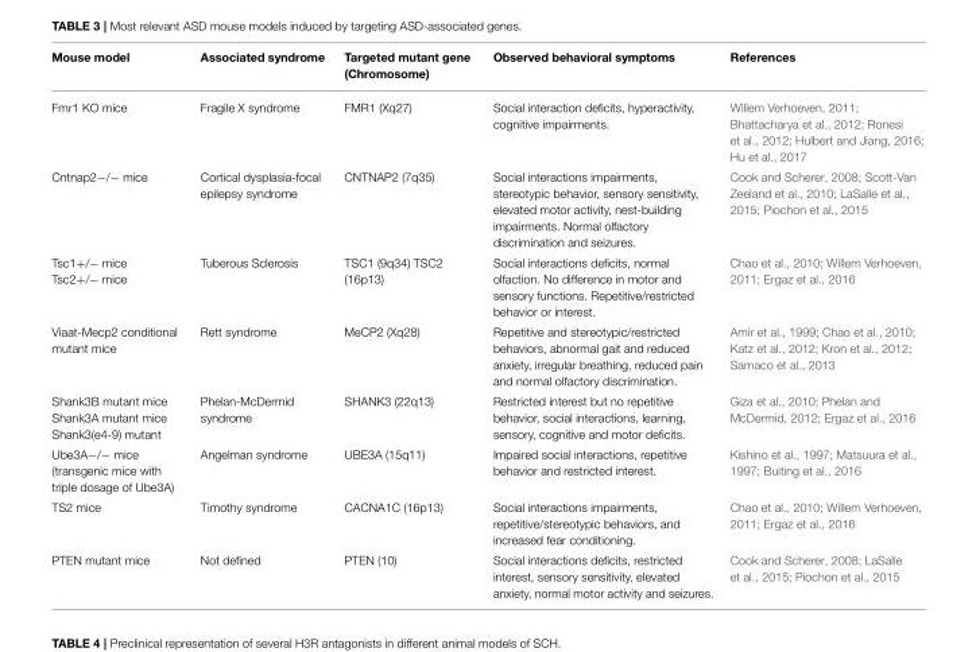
<table><thead><tr><td>Mouse model</td><td>Associated syndrome</td><td>Targeted mutant gene (Chromosome)</td><td>Observed behavioral symptoms</td><td>References</td></tr></thead><tbody><tr><td>Fmr1 KO mice</td><td>Fragile X syndrome</td><td>FMR1 (Xq27)</td><td>Social interaction deficits, hyperactivity, cognitive impairments.</td><td>Willem Verhoeven, 2011; Bhattacharya et al., 2012; Ronesi et al., 2012; Hulbert and Jiang, 2016; Hu et al., 2017</td></tr><tr><td>Cntnap2−/− mice</td><td>Cortical dysplasia-focal epilepsy syndrome</td><td>CNTNAP2 (7q35)</td><td>Social interactions impairments, stereotypic behavior, sensory sensitivity, elevated motor activity, nest-building impairments. Normal olfactory discrimination and seizures.</td><td>Cook and Scherer, 2008; Scott-Van Zeeland et al., 2010; LaSalle et al., 2015; Piochon et al., 2015</td></tr><tr><td>Tsc1+/− mice Tsc2+/− mice</td><td>Tuberous Sclerosis</td><td>TSC1 (9q34) TSC2 (16p13)</td><td>Social interactions deficits, normal olfaction. No difference in motor and sensory functions. Repetitive/restricted behavior or interest.</td><td>Chao et al., 2010; Willem Verhoeven, 2011; Ergaz et al., 2016</td></tr><tr><td>Viaat-Mecp2 conditional mutant mice</td><td>Rett syndrome</td><td>MeCP2 (Xq28)</td><td>Repetitive and stereotypic/restricted behaviors, abnormal gait and reduced anxiety, irregular breathing, reduced pain and normal olfactory discrimination.</td><td>Amir et al., 1999; Chao et al., 2010; Katz et al., 2012; Kron et al., 2012; Samaco et al., 2013</td></tr><tr><td>Shank3B mutant mice Shank3A mutant mice Shank3(e4-9) mutant</td><td>Phelan-McDermid syndrome</td><td>SHANK3 (22q13)</td><td>Restricted interest but no repetitive behavior, social interactions, learning, sensory, cognitive and motor deficits.</td><td>Giza et al., 2010; Phelan and McDermid, 2012; Ergaz et al., 2016</td></tr><tr><td>Ube3A−/− mice (transgenic mice with triple dosage of Ube3A)</td><td>Angelman syndrome</td><td>UBE3A (15q11)</td><td>Impaired social interactions, repetitive behavior and restricted interest.</td><td>Kishino et al., 1997; Matsuura et al., 1997; Buiting et al., 2016</td></tr><tr><td>TS2 mice</td><td>Timothy syndrome</td><td>CACNA1C (16p13)</td><td>Social interactions impairments, repetitive/stereotypic behaviors, and increased fear conditioning.</td><td>Chao et al., 2010; Willem Verhoeven, 2011; Ergaz et al., 2016</td></tr><tr><td>PTEN mutant mice</td><td>Not defined</td><td>PTEN (10)</td><td>Social interactions deficits, restricted interest, sensory sensitivity, elevated anxiety, normal motor activity and seizures.</td><td>Cook and Scherer, 2008; LaSalle et al., 2015; Piochon et al., 2015</td></tr></tbody></table>